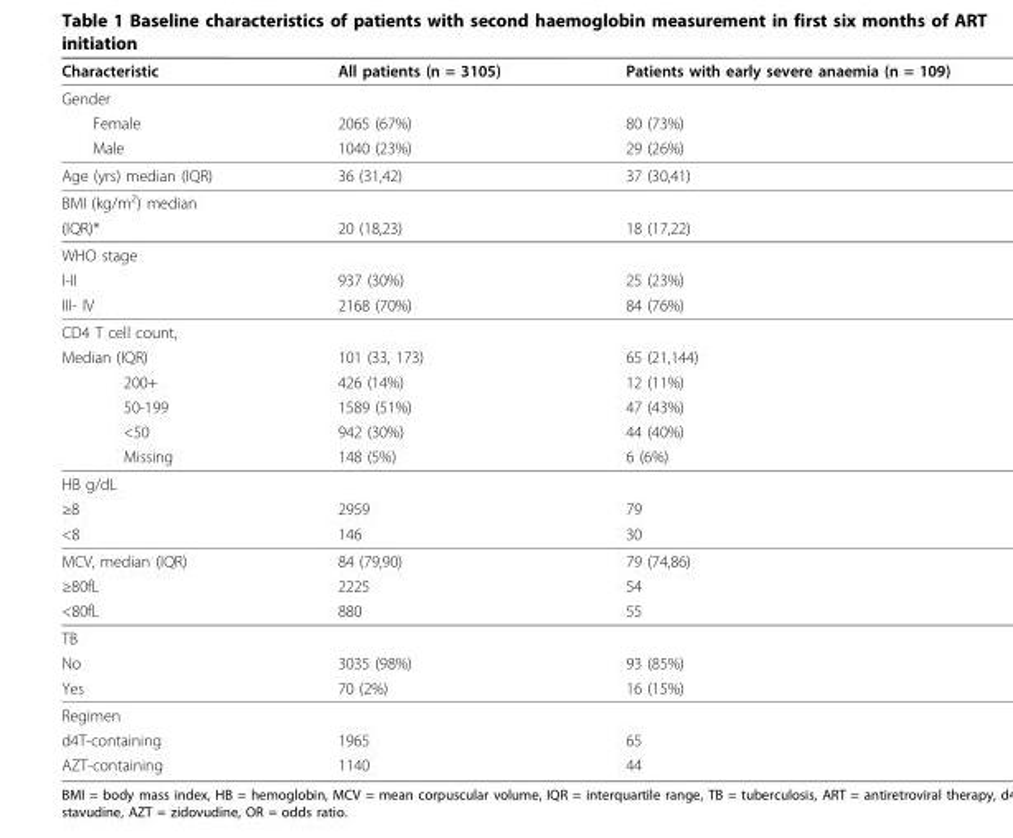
<table><thead><tr><td>Characteristic</td><td>All patients (n = 3105)</td><td>Patients with early severe anaemia (n = 109)</td></tr></thead><tbody><tr><td colspan="3">Gender</td></tr><tr><td>Female</td><td>2065 (67%)</td><td>80 (73%)</td></tr><tr><td>Male</td><td>1040 (23%)</td><td>29 (26%)</td></tr><tr><td>Age (yrs) median (IQR)</td><td>36 (31,42)</td><td>37 (30,41)</td></tr><tr><td colspan="3">BMI (kg/m<sup>2</sup>) median</td></tr><tr><td>(IQR)*</td><td>20 (18,23)</td><td>18 (17,22)</td></tr><tr><td colspan="3">WHO stage</td></tr><tr><td>I-II</td><td>937 (30%)</td><td>25 (23%)</td></tr><tr><td>III- IV</td><td>2168 (70%)</td><td>84 (76%)</td></tr><tr><td colspan="3">CD4 T cell count,</td></tr><tr><td>Median (IQR)</td><td>101 (33, 173)</td><td>65 (21,144)</td></tr><tr><td>200+</td><td>426 (14%)</td><td>12 (11%)</td></tr><tr><td>50-199</td><td>1589 (51%)</td><td>47 (43%)</td></tr><tr><td>&lt;50</td><td>942 (30%)</td><td>44 (40%)</td></tr><tr><td>Missing</td><td>148 (5%)</td><td>6 (6%)</td></tr><tr><td colspan="3">HB g/dL</td></tr><tr><td>≥8</td><td>2959</td><td>79</td></tr><tr><td>&lt;8</td><td>146</td><td>30</td></tr><tr><td>MCV, median (IQR)</td><td>84 (79,90)</td><td>79 (74,86)</td></tr><tr><td>≥80fL</td><td>2225</td><td>54</td></tr><tr><td>&lt;80fL</td><td>880</td><td>55</td></tr><tr><td colspan="3">TB</td></tr><tr><td>No</td><td>3035 (98%)</td><td>93 (85%)</td></tr><tr><td>Yes</td><td>70 (2%)</td><td>16 (15%)</td></tr><tr><td colspan="3">Regimen</td></tr><tr><td>d4T-containing</td><td>1965</td><td>65</td></tr><tr><td>AZT-containing</td><td>1140</td><td>44</td></tr></tbody></table>